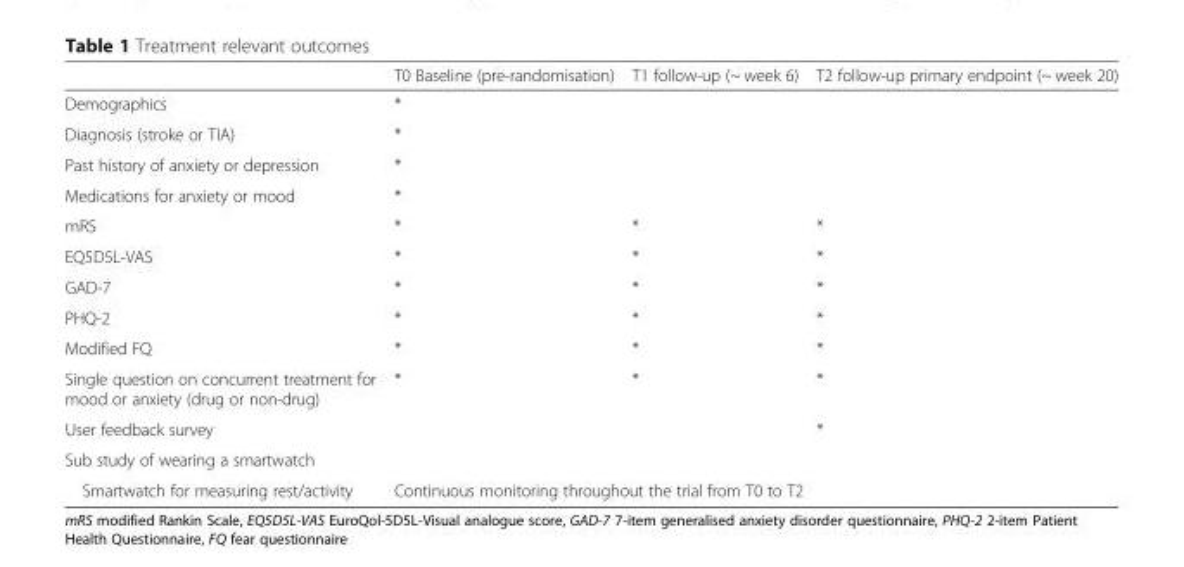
<table><thead><tr><td></td><td>T0 Baseline (pre-randomisation)</td><td>T1 follow-up (~ week 6)</td><td>T2 follow-up primary endpoint (~ week 20)</td></tr></thead><tbody><tr><td>Demographics</td><td>*</td><td></td><td></td></tr><tr><td>Diagnosis (stroke or TIA)</td><td>*</td><td></td><td></td></tr><tr><td>Past history of anxiety or depression</td><td>*</td><td></td><td></td></tr><tr><td>Medications for anxiety or mood</td><td>*</td><td></td><td></td></tr><tr><td>mRS</td><td>*</td><td>*</td><td>*</td></tr><tr><td>EQ5D5L-VAS</td><td>*</td><td>*</td><td>*</td></tr><tr><td>GAD-7</td><td>*</td><td>*</td><td>*</td></tr><tr><td>PHQ-2</td><td>*</td><td>*</td><td>*</td></tr><tr><td>Modified FQ</td><td>*</td><td>*</td><td>*</td></tr><tr><td>Single question on concurrent treatment for mood or anxiety (drug or non-drug)</td><td>*</td><td>*</td><td>*</td></tr><tr><td>User feedback survey</td><td></td><td></td><td>*</td></tr><tr><td colspan="4">Sub study of wearing a smartwatch</td></tr><tr><td>Smartwatch for measuring rest/activity</td><td colspan="3">Continuous monitoring throughout the trial from T0 to T2</td></tr></tbody></table>